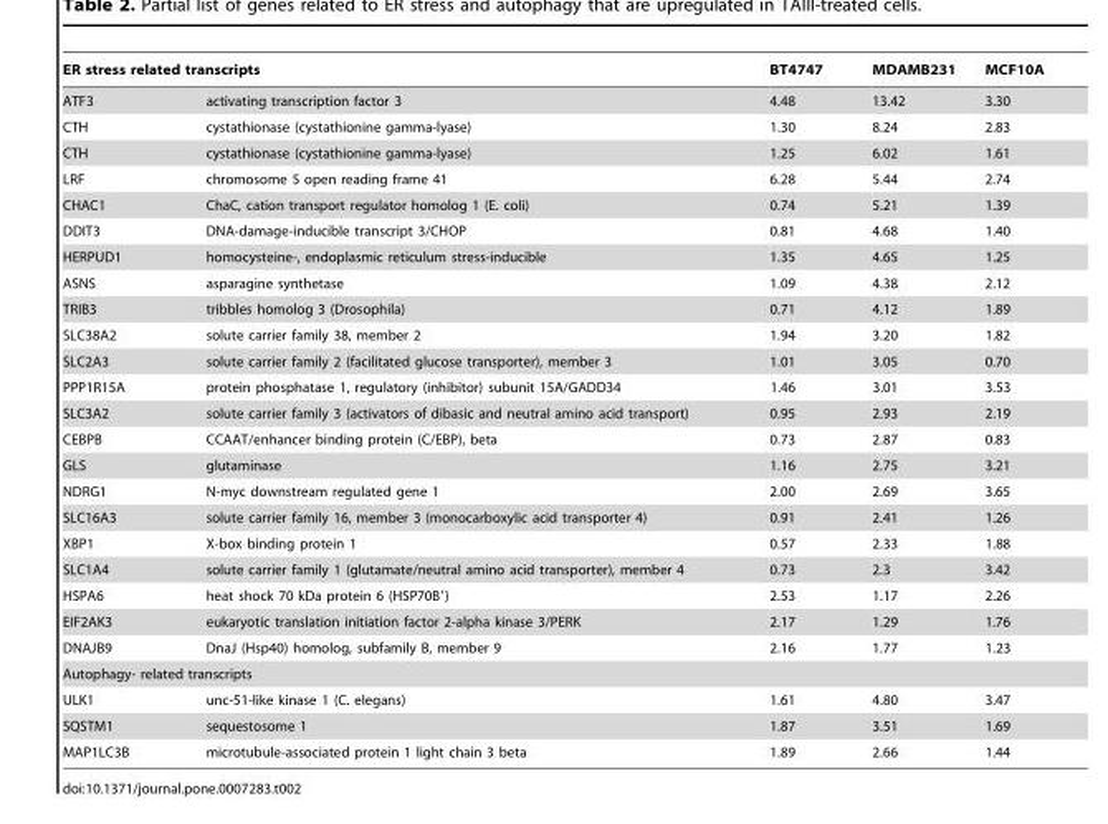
<table><thead><tr><td colspan="2">ER stress related transcripts</td><td rowspan="2">BT4747 4.48</td><td rowspan="2">MDAMB231 13.42</td><td rowspan="2">MCF10A 3.30</td></tr><tr><td>ATF3</td><td>activating transcription factor 3</td></tr></thead><tbody><tr><td>CTH</td><td>cystathionase (cystathionine gamma-lyase)</td><td>1.30</td><td>8.24</td><td>2.83</td></tr><tr><td>CTH</td><td>cystathionase (cystathionine gamma-lyase)</td><td>1.25</td><td>6.02</td><td>1.61</td></tr><tr><td>LRF</td><td>chromosome 5 open reading frame 41</td><td>6.28</td><td>5.44</td><td>2.74</td></tr><tr><td>CHAC1</td><td>ChaC, cation transport regulator homolog 1 (E. coli)</td><td>0.74</td><td>5.21</td><td>1.39</td></tr><tr><td>DDIT3</td><td>DNA-damage-inducible transcript 3/CHOP</td><td>0.81</td><td>4.68</td><td>1.40</td></tr><tr><td>HERPUD1</td><td>homocysteine-, endoplasmic reticulum stress-inducible</td><td>1.35</td><td>4.65</td><td>1.25</td></tr><tr><td>ASNS</td><td>asparagine synthetase</td><td>1.09</td><td>4.38</td><td>2.12</td></tr><tr><td>TRIB3</td><td>tribbles homolog 3 (Drosophila)</td><td>0.71</td><td>4.12</td><td>1.89</td></tr><tr><td>SLC38A2</td><td>solute carrier family 38, member 2</td><td>1.94</td><td>3.20</td><td>1.82</td></tr><tr><td>SLC2A3</td><td>solute carrier family 2 (facilitated glucose transporter), member 3</td><td>1.01</td><td>3.05</td><td>0.70</td></tr><tr><td>PPP1R15A</td><td>protein phosphatase 1, regulatory (inhibitor) subunit 15A/GADD34</td><td>1.46</td><td>3.01</td><td>3.53</td></tr><tr><td>SLC3A2</td><td>solute carrier family 3 (activators of dibasic and neutral amino acid transport)</td><td>0.95</td><td>2.93</td><td>2.19</td></tr><tr><td>CEBPB</td><td>CCAAT/enhancer binding protein (C/EBP), beta</td><td>0.73</td><td>2.87</td><td>0.83</td></tr><tr><td>GLS</td><td>glutaminase</td><td>1.16</td><td>2.75</td><td>3.21</td></tr><tr><td>NDRG1</td><td>N-myc downstream regulated gene 1</td><td>2.00</td><td>2.69</td><td>3.65</td></tr><tr><td>SLC16A3</td><td>solute carrier family 16, member 3 (monocarboxylic acid transporter 4)</td><td>0.91</td><td>2.41</td><td>1.26</td></tr><tr><td>XBP1</td><td>X-box binding protein 1</td><td>0.57</td><td>2.33</td><td>1.88</td></tr><tr><td>SLC1A4</td><td>solute carrier family 1 (glutamate/neutral amino acid transporter), member 4</td><td>0.73</td><td>2.3</td><td>3.42</td></tr><tr><td>HSPA6</td><td>heat shock 70 kDa protein 6 (HSP70B′)</td><td>2.53</td><td>1.17</td><td>2.26</td></tr><tr><td>EIF2AK3</td><td>eukaryotic translation initiation factor 2-alpha kinase 3/PERK</td><td>2.17</td><td>1.29</td><td>1.76</td></tr><tr><td>DNAJB9</td><td>DnaJ (Hsp40) homolog, subfamily B, member 9</td><td>2.16</td><td>1.77</td><td>1.23</td></tr><tr><td colspan="5">Autophagy- related transcripts</td></tr><tr><td>ULK1</td><td>unc-51-like kinase 1 (C. elegans)</td><td>1.61</td><td>4.80</td><td>3.47</td></tr><tr><td>SQSTM1</td><td>sequestosome 1</td><td>1.87</td><td>3.51</td><td>1.69</td></tr><tr><td>MAP1LC3B</td><td>microtubule-associated protein 1 light chain 3 beta</td><td>1.89</td><td>2.66</td><td>1.44</td></tr></tbody></table>